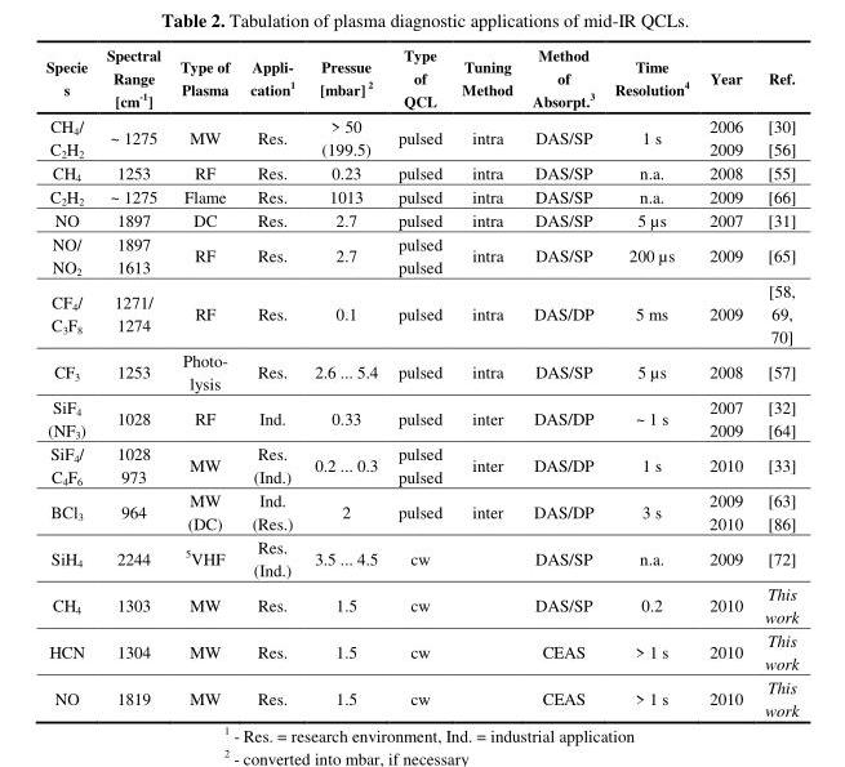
<table><thead><tr><td>Specie s</td><td>Spectral Range [cm<sup>-1</sup>]</td><td>Type of Plasma</td><td>Appli- cation1</td><td>Pressue [mbar] <sup>2</sup></td><td>Type of QCL</td><td>Tuning Method</td><td>Method of Absorpt.<sup>3</sup></td><td>Time Resolution<sup>4</sup></td><td>Year</td><td>Ref.</td></tr></thead><tbody><tr><td>CH<sub>4</sub>/ C<sub>2</sub>H<sub>2</sub></td><td>~ 1275</td><td>MW</td><td>Res.</td><td>&gt; 50 (199.5)</td><td>pulsed</td><td>intra</td><td>DAS/SP</td><td>1 s</td><td>2006 2009</td><td>[30] [56]</td></tr><tr><td>CH<sub>4</sub></td><td>1253</td><td>RF</td><td>Res.</td><td>0.23</td><td>pulsed</td><td>intra</td><td>DAS/SP</td><td>n.a.</td><td>2008</td><td>[55]</td></tr><tr><td>C<sub>2</sub>H<sub>2</sub></td><td>~ 1275</td><td>Flame</td><td>Res.</td><td>1013</td><td>pulsed</td><td>intra</td><td>DAS/SP</td><td>n.a.</td><td>2009</td><td>[66]</td></tr><tr><td>NO</td><td>1897</td><td>DC</td><td>Res.</td><td>2.7</td><td>pulsed</td><td>intra</td><td>DAS/SP</td><td>5 µs</td><td>2007</td><td>[31]</td></tr><tr><td>NO/ NO<sub>2</sub></td><td>1897 1613</td><td>RF</td><td>Res.</td><td>2.7</td><td>pulsed pulsed</td><td>intra</td><td>DAS/SP</td><td>200 µs</td><td>2009</td><td>[65]</td></tr><tr><td>CF<sub>4</sub>/ C<sub>3</sub>F<sub>8</sub></td><td>1271/ 1274</td><td>RF</td><td>Res.</td><td>0.1</td><td>pulsed</td><td>intra</td><td>DAS/DP</td><td>5 ms</td><td>2009</td><td>[58, 69, 70]</td></tr><tr><td>CF<sub>3</sub></td><td>1253</td><td>Photo- lysis</td><td>Res.</td><td>2.6 ... 5.4</td><td>pulsed</td><td>intra</td><td>DAS/SP</td><td>5 µs</td><td>2008</td><td>[57]</td></tr><tr><td>SiF<sub>4</sub> (NF<sub>3</sub>)</td><td>1028</td><td>RF</td><td>Ind.</td><td>0.33</td><td>pulsed</td><td>inter</td><td>DAS/DP</td><td>~ 1 s</td><td>2007 2009</td><td>[32] [64]</td></tr><tr><td>SiF<sub>4</sub>/ C<sub>4</sub>F<sub>6</sub></td><td>1028 973</td><td>MW</td><td>Res. (Ind.)</td><td>0.2 ... 0.3</td><td>pulsed pulsed</td><td>inter</td><td>DAS/DP</td><td>1 s</td><td>2010</td><td>[33]</td></tr><tr><td>BCl<sub>3</sub></td><td>964</td><td>MW (DC)</td><td>Ind. (Res.)</td><td>2</td><td>pulsed</td><td>inter</td><td>DAS/DP</td><td>3 s</td><td>2009 2010</td><td>[63] [86]</td></tr><tr><td>SiH<sub>4</sub></td><td>2244</td><td><sup>5</sup>VHF</td><td>Res. (Ind.)</td><td>3.5 ... 4.5</td><td>cw</td><td></td><td>DAS/SP</td><td>n.a.</td><td>2009</td><td>[72]</td></tr><tr><td>CH<sub>4</sub></td><td>1303</td><td>MW</td><td>Res.</td><td>1.5</td><td>cw</td><td></td><td>DAS/SP</td><td>0.2</td><td>2010</td><td>This work</td></tr><tr><td>HCN</td><td>1304</td><td>MW</td><td>Res.</td><td>1.5</td><td>cw</td><td></td><td>CEAS</td><td>&gt; 1 s</td><td>2010</td><td>This work</td></tr><tr><td>NO</td><td>1819</td><td>MW</td><td>Res.</td><td>1.5</td><td>cw</td><td></td><td>CEAS</td><td>&gt; 1 s</td><td>2010</td><td>This work</td></tr></tbody></table>